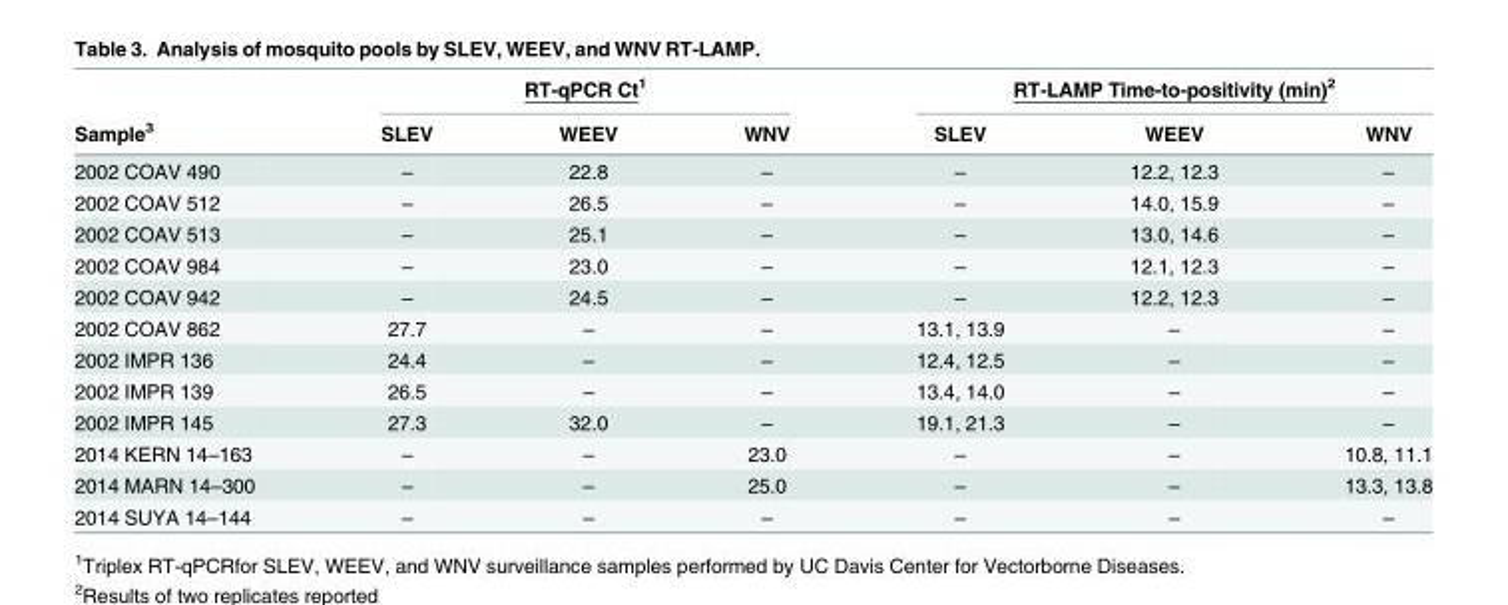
<table><thead><tr><td rowspan="2">Sample<sup>3</sup></td><td colspan="3">RT-qPCR Ct<sup>1</sup></td><td colspan="3">RT-LAMP Time-to-positivity (min)<sup>2</sup></td></tr><tr><td>SLEV</td><td>WEEV</td><td>WNV</td><td>SLEV</td><td>WEEV</td><td>WNV</td></tr></thead><tbody><tr><td>2002 COAV 490</td><td>–</td><td>22.8</td><td>–</td><td>–</td><td>12.2, 12.3</td><td>–</td></tr><tr><td>2002 COAV 512</td><td>–</td><td>26.5</td><td>–</td><td>–</td><td>14.0, 15.9</td><td>–</td></tr><tr><td>2002 COAV 513</td><td>–</td><td>25.1</td><td>–</td><td>–</td><td>13.0, 14.6</td><td>–</td></tr><tr><td>2002 COAV 984</td><td>–</td><td>23.0</td><td>–</td><td>–</td><td>12.1, 12.3</td><td>–</td></tr><tr><td>2002 COAV 942</td><td>–</td><td>24.5</td><td>–</td><td>–</td><td>12.2, 12.3</td><td>–</td></tr><tr><td>2002 COAV 862</td><td>27.7</td><td>–</td><td>–</td><td>13.1, 13.9</td><td>–</td><td>–</td></tr><tr><td>2002 IMPR 136</td><td>24.4</td><td>–</td><td>–</td><td>12.4, 12.5</td><td>–</td><td>–</td></tr><tr><td>2002 IMPR 139</td><td>26.5</td><td>–</td><td>–</td><td>13.4, 14.0</td><td>–</td><td>–</td></tr><tr><td>2002 IMPR 145</td><td>27.3</td><td>32.0</td><td>–</td><td>19.1, 21.3</td><td>–</td><td>–</td></tr><tr><td>2014 KERN 14–163</td><td>–</td><td>–</td><td>23.0</td><td>–</td><td>–</td><td>10.8, 11.1</td></tr><tr><td>2014 MARN 14–300</td><td>–</td><td>–</td><td>25.0</td><td>–</td><td>–</td><td>13.3, 13.8</td></tr><tr><td>2014 SUYA 14–144</td><td>–</td><td>–</td><td>–</td><td>–</td><td>–</td><td>–</td></tr></tbody></table>